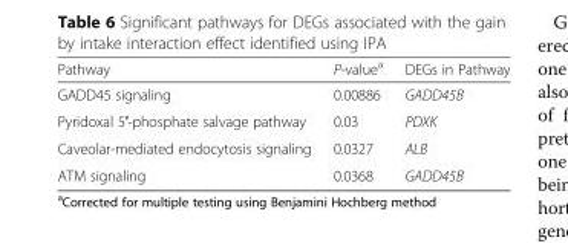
<table><thead><tr><td>Pathway</td><td>P-value<sup>a</sup></td><td>DEGs in Pathway</td></tr></thead><tbody><tr><td>GADD45 signaling</td><td>0.00886</td><td>GADD45B</td></tr><tr><td>Pyridoxal 5′-phosphate salvage pathway</td><td>0.03</td><td>PDXK</td></tr><tr><td>Caveolar-mediated endocytosis signaling</td><td>0.0327</td><td>ALB</td></tr><tr><td>ATM signaling</td><td>0.0368</td><td>GADD45B</td></tr></tbody></table>